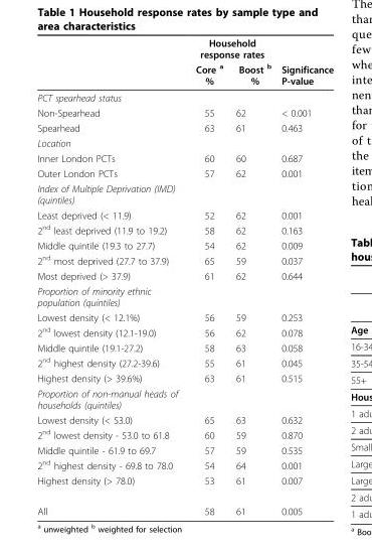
<table><thead><tr><td rowspan="2"></td><td colspan="2">Household response rates</td><td rowspan="2">Significance P-value</td></tr><tr><td>Core <sup>a</sup> %</td><td>Boost <sup>b</sup> %</td></tr></thead><tbody><tr><td colspan="4">PCT spearhead status</td></tr><tr><td>Non-Spearhead</td><td>55</td><td>62</td><td>&lt; 0.001</td></tr><tr><td>Spearhead</td><td>63</td><td>61</td><td>0.463</td></tr><tr><td colspan="4">Location</td></tr><tr><td>Inner London PCTs</td><td>60</td><td>60</td><td>0.687</td></tr><tr><td>Outer London PCTs</td><td>57</td><td>62</td><td>0.001</td></tr><tr><td colspan="4">Index of Multiple Deprivation (IMD) (quintiles)</td></tr><tr><td>Least deprived (&lt; 11.9)</td><td>52</td><td>62</td><td>0.001</td></tr><tr><td>2<sup>nd</sup> least deprived (11.9 to 19.2)</td><td>58</td><td>62</td><td>0.163</td></tr><tr><td>Middle quintile (19.3 to 27.7)</td><td>54</td><td>62</td><td>0.009</td></tr><tr><td>2<sup>nd</sup> most deprived (27.7 to 37.9)</td><td>65</td><td>59</td><td>0.037</td></tr><tr><td>Most deprived (&gt; 37.9)</td><td>61</td><td>62</td><td>0.644</td></tr><tr><td colspan="4">Proportion of minority ethnic population (quintiles)</td></tr><tr><td>Lowest density (&lt; 12.1%)</td><td>56</td><td>59</td><td>0.253</td></tr><tr><td>2<sup>nd</sup> lowest density (12.1-19.0)</td><td>56</td><td>62</td><td>0.078</td></tr><tr><td>Middle quintile (19.1-27.2)</td><td>58</td><td>63</td><td>0.058</td></tr><tr><td>2<sup>nd</sup> highest density (27.2-39.6)</td><td>55</td><td>61</td><td>0.045</td></tr><tr><td>Highest density (&gt; 39.6%)</td><td>63</td><td>61</td><td>0.515</td></tr><tr><td colspan="4">Proportion of non-manual heads of households (quintiles)</td></tr><tr><td>Lowest density (&lt; 53.0)</td><td>65</td><td>63</td><td>0.632</td></tr><tr><td>2<sup>nd</sup> lowest density - 53.0 to 61.8</td><td>60</td><td>59</td><td>0.870</td></tr><tr><td>Middle quintile - 61.9 to 69.7</td><td>57</td><td>59</td><td>0.535</td></tr><tr><td>2<sup>nd</sup> highest density - 69.8 to 78.0</td><td>54</td><td>64</td><td>0.001</td></tr><tr><td>Highest density (&gt; 78.0)</td><td>53</td><td>61</td><td>0.007</td></tr><tr><td>All</td><td>58</td><td>61</td><td>0.005</td></tr></tbody></table>